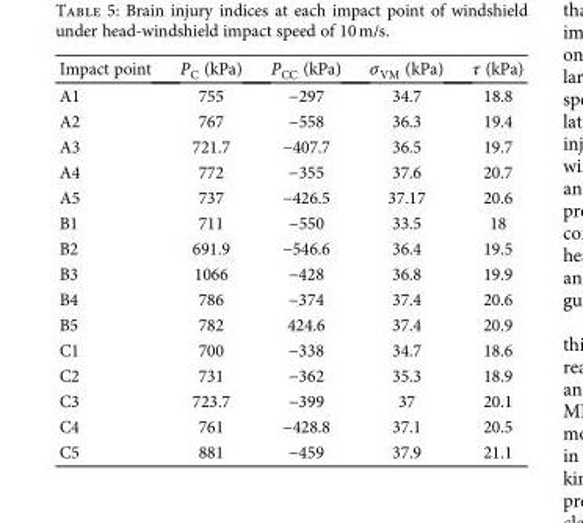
<table><thead><tr><td>Impact point</td><td>P<sub>C</sub> (kPa)</td><td>P<sub>CC</sub> (kPa)</td><td>σ<sub>VM</sub> (kPa)</td><td>τ (kPa)</td></tr></thead><tbody><tr><td>A1</td><td>755</td><td>−297</td><td>34.7</td><td>18.8</td></tr><tr><td>A2</td><td>767</td><td>−558</td><td>36.3</td><td>19.4</td></tr><tr><td>A3</td><td>721.7</td><td>−407.7</td><td>36.5</td><td>19.7</td></tr><tr><td>A4</td><td>772</td><td>−355</td><td>37.6</td><td>20.7</td></tr><tr><td>A5</td><td>737</td><td>−426.5</td><td>37.17</td><td>20.6</td></tr><tr><td>B1</td><td>711</td><td>−550</td><td>33.5</td><td>18</td></tr><tr><td>B2</td><td>691.9</td><td>−546.6</td><td>36.4</td><td>19.5</td></tr><tr><td>B3</td><td>1066</td><td>−428</td><td>36.8</td><td>19.9</td></tr><tr><td>B4</td><td>786</td><td>−374</td><td>37.4</td><td>20.6</td></tr><tr><td>B5</td><td>782</td><td>424.6</td><td>37.4</td><td>20.9</td></tr><tr><td>C1</td><td>700</td><td>−338</td><td>34.7</td><td>18.6</td></tr><tr><td>C2</td><td>731</td><td>−362</td><td>35.3</td><td>18.9</td></tr><tr><td>C3</td><td>723.7</td><td>−399</td><td>37</td><td>20.1</td></tr><tr><td>C4</td><td>761</td><td>−428.8</td><td>37.1</td><td>20.5</td></tr><tr><td>C5</td><td>881</td><td>−459</td><td>37.9</td><td>21.1</td></tr></tbody></table>